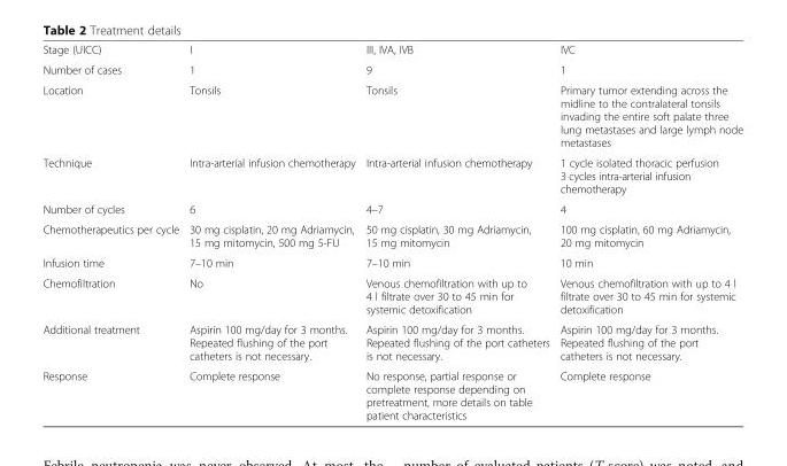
<table><tbody><tr><td>Stage (UICC)</td><td>I</td><td>III, IVA, IVB</td><td>IVC</td></tr><tr><td>Number of cases</td><td>1</td><td>9</td><td>1</td></tr><tr><td>Location</td><td>Tonsils</td><td>Tonsils</td><td>Primary tumor extending across the midline to the contralateral tonsils invading the entire soft palate three lung metastases and large lymph node metastases</td></tr><tr><td>Technique</td><td>Intra-arterial infusion chemotherapy</td><td>Intra-arterial infusion chemotherapy</td><td>1 cycle isolated thoracic perfusion 3 cycles intra-arterial infusion chemotherapy</td></tr><tr><td>Number of cycles</td><td>6</td><td>4–7</td><td>4</td></tr><tr><td>Chemotherapeutics per cycle</td><td>30 mg cisplatin, 20 mg Adriamycin, 15 mg mitomycin, 500 mg 5-FU</td><td>50 mg cisplatin, 30 mg Adriamycin, 15 mg mitomycin</td><td>100 mg cisplatin, 60 mg Adriamycin, 20 mg mitomycin</td></tr><tr><td>Infusion time</td><td>7–10 min</td><td>7–10 min</td><td>10 min</td></tr><tr><td>Chemofiltration</td><td>No</td><td>Venous chemofiltration with up to 4 l filtrate over 30 to 45 min for systemic detoxification</td><td>Venous chemofiltration with up to 4 l filtrate over 30 to 45 min for systemic detoxification</td></tr><tr><td>Additional treatment</td><td>Aspirin 100 mg/day for 3 months. Repeated flushing of the port catheters is not necessary.</td><td>Aspirin 100 mg/day for 3 months. Repeated flushing of the port catheters is not necessary.</td><td>Aspirin 100 mg/day for 3 months. Repeated flushing of the port catheters is not necessary.</td></tr><tr><td>Response</td><td>Complete response</td><td>No response, partial response or complete response depending on pretreatment, more details on table patient characteristics</td><td>Complete response</td></tr></tbody></table>